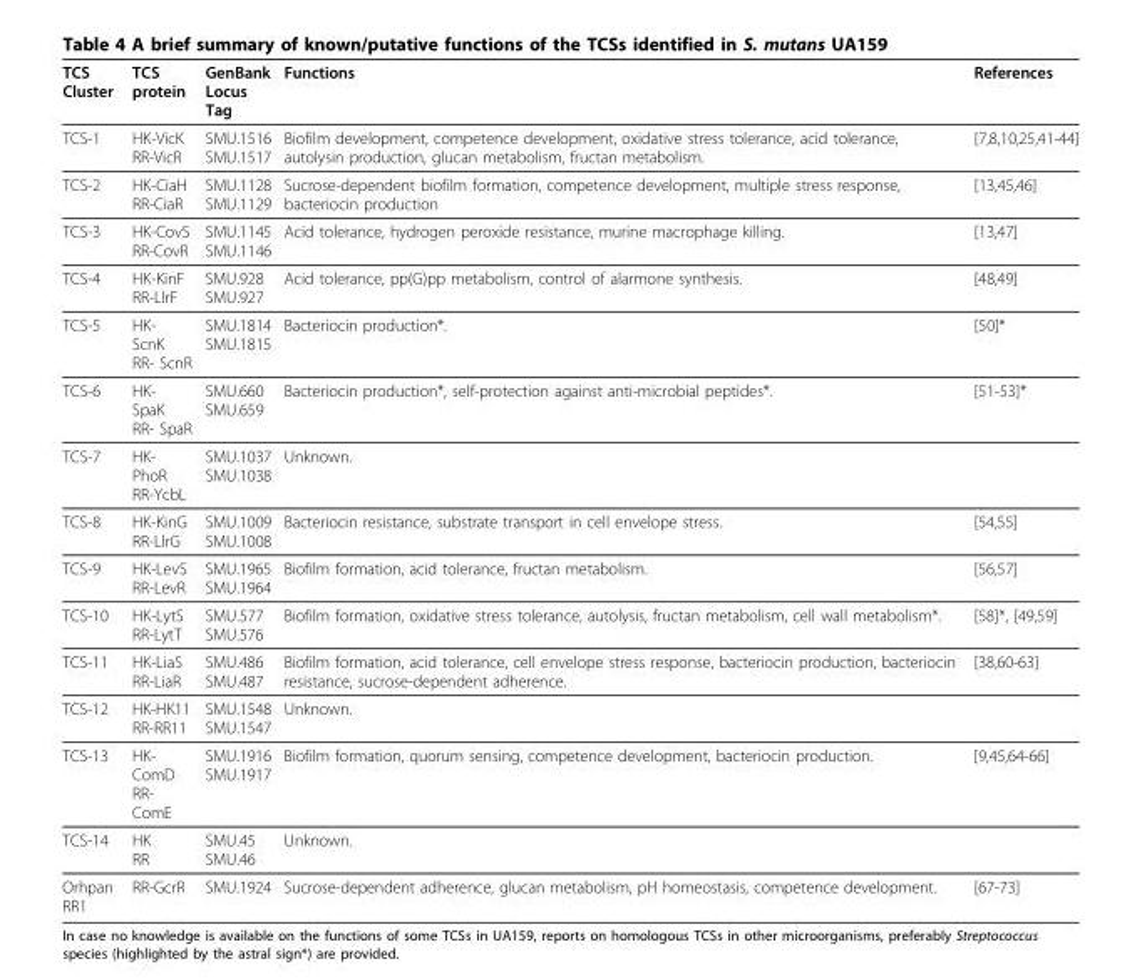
<table><thead><tr><td>TCS Cluster</td><td>TCS protein</td><td>GenBank Locus Tag</td><td>Functions</td><td>References</td></tr></thead><tbody><tr><td>TCS-1</td><td>HK-VicK RR-VicR</td><td>SMU.1516 SMU.1517</td><td>Biofilm development, competence development, oxidative stress tolerance, acid tolerance, autolysin production, glucan metabolism, fructan metabolism.</td><td>[7,8,10,25,41-44]</td></tr><tr><td>TCS-2</td><td>HK-CiaH RR-CiaR</td><td>SMU.1128 SMU.1129</td><td>Sucrose-dependent biofilm formation, competence development, multiple stress response, bacteriocin production</td><td>[13,45,46]</td></tr><tr><td>TCS-3</td><td>HK-CovS RR-CovR</td><td>SMU.1145 SMU.1146</td><td>Acid tolerance, hydrogen peroxide resistance, murine macrophage killing.</td><td>[13,47]</td></tr><tr><td>TCS-4</td><td>HK-KinF RR-LlrF</td><td>SMU.928 SMU.927</td><td>Acid tolerance, pp(G)pp metabolism, control of alarmone synthesis.</td><td>[48,49]</td></tr><tr><td>TCS-5</td><td>HK- ScnK RR- ScnR</td><td>SMU.1814 SMU.1815</td><td>Bacteriocin production*.</td><td>[50]*</td></tr><tr><td>TCS-6</td><td>HK- SpaK RR- SpaR</td><td>SMU.660 SMU.659</td><td>Bacteriocin production*, self-protection against anti-microbial peptides*.</td><td>[51-53]*</td></tr><tr><td>TCS-7</td><td>HK- PhoR RR-YcbL</td><td>SMU.1037 SMU.1038</td><td>Unknown.</td><td></td></tr><tr><td>TCS-8</td><td>HK-KinG RR-LlrG</td><td>SMU.1009 SMU.1008</td><td>Bacteriocin resistance, substrate transport in cell envelope stress.</td><td>[54,55]</td></tr><tr><td>TCS-9</td><td>HK-LevS RR-LevR</td><td>SMU.1965 SMU.1964</td><td>Biofilm formation, acid tolerance, fructan metabolism.</td><td>[56,57]</td></tr><tr><td>TCS-10</td><td>HK-LytS RR-LytT</td><td>SMU.577 SMU.576</td><td>Biofilm formation, oxidative stress tolerance, autolysis, fructan metabolism, cell wall metabolism*.</td><td>[58]*, [49,59]</td></tr><tr><td>TCS-11</td><td>HK-LiaS RR-LiaR</td><td>SMU.486 SMU.487</td><td>Biofilm formation, acid tolerance, cell envelope stress response, bacteriocin production, bacteriocin resistance, sucrose-dependent adherence.</td><td>[38,60-63]</td></tr><tr><td>TCS-12</td><td>HK-HK11 RR-RR11</td><td>SMU.1548 SMU.1547</td><td>Unknown.</td><td></td></tr><tr><td>TCS-13</td><td>HK- ComD RR- ComE</td><td>SMU.1916 SMU.1917</td><td>Biofilm formation, quorum sensing, competence development, bacteriocin production.</td><td>[9,45,64-66]</td></tr><tr><td>TCS-14</td><td>HK RR</td><td>SMU.45 SMU.46</td><td>Unknown.</td><td></td></tr><tr><td>Orhpan RR1</td><td>RR-GcrR</td><td>SMU.1924</td><td>Sucrose-dependent adherence, glucan metabolism, pH homeostasis, competence development.</td><td>[67-73]</td></tr></tbody></table>